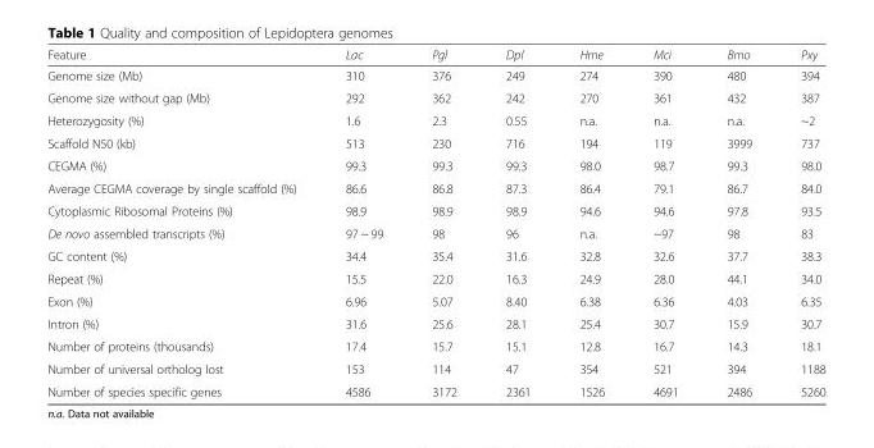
<table><thead><tr><td>Feature</td><td>Lac</td><td>Pgl</td><td>Dpl</td><td>Hme</td><td>Mci</td><td>Bmo</td><td>Pxy</td></tr></thead><tbody><tr><td>Genome size (Mb)</td><td>310</td><td>376</td><td>249</td><td>274</td><td>390</td><td>480</td><td>394</td></tr><tr><td>Genome size without gap (Mb)</td><td>292</td><td>362</td><td>242</td><td>270</td><td>361</td><td>432</td><td>387</td></tr><tr><td>Heterozygosity (%)</td><td>1.6</td><td>2.3</td><td>0.55</td><td>n.a.</td><td>n.a.</td><td>n.a.</td><td>~2</td></tr><tr><td>Scaffold N50 (kb)</td><td>513</td><td>230</td><td>716</td><td>194</td><td>119</td><td>3999</td><td>737</td></tr><tr><td>CEGMA (%)</td><td>99.3</td><td>99.3</td><td>99.3</td><td>98.0</td><td>98.7</td><td>99.3</td><td>98.0</td></tr><tr><td>Average CEGMA coverage by single scaffold (%)</td><td>86.6</td><td>86.8</td><td>87.3</td><td>86.4</td><td>79.1</td><td>86.7</td><td>84.0</td></tr><tr><td>Cytoplasmic Ribosomal Proteins (%)</td><td>98.9</td><td>98.9</td><td>98.9</td><td>94.6</td><td>94.6</td><td>97.8</td><td>93.5</td></tr><tr><td>De novo assembled transcripts (%)</td><td>97 ~ 99</td><td>98</td><td>96</td><td>n.a.</td><td>~97</td><td>98</td><td>83</td></tr><tr><td>GC content (%)</td><td>34.4</td><td>35.4</td><td>31.6</td><td>32.8</td><td>32.6</td><td>37.7</td><td>38.3</td></tr><tr><td>Repeat (%)</td><td>15.5</td><td>22.0</td><td>16.3</td><td>24.9</td><td>28.0</td><td>44.1</td><td>34.0</td></tr><tr><td>Exon (%)</td><td>6.96</td><td>5.07</td><td>8.40</td><td>6.38</td><td>6.36</td><td>4.03</td><td>6.35</td></tr><tr><td>Intron (%)</td><td>31.6</td><td>25.6</td><td>28.1</td><td>25.4</td><td>30.7</td><td>15.9</td><td>30.7</td></tr><tr><td>Number of proteins (thousands)</td><td>17.4</td><td>15.7</td><td>15.1</td><td>12.8</td><td>16.7</td><td>14.3</td><td>18.1</td></tr><tr><td>Number of universal ortholog lost</td><td>153</td><td>114</td><td>47</td><td>354</td><td>521</td><td>394</td><td>1188</td></tr><tr><td>Number of species specific genes</td><td>4586</td><td>3172</td><td>2361</td><td>1526</td><td>4691</td><td>2486</td><td>5260</td></tr></tbody></table>